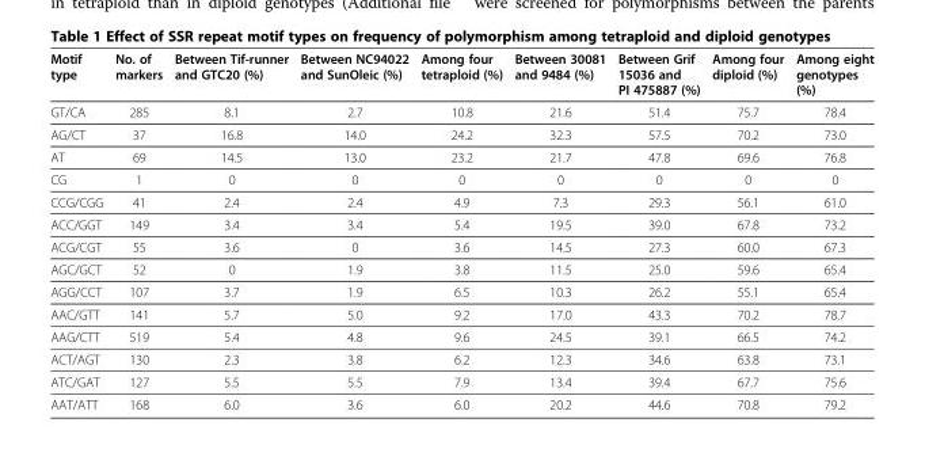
<table><thead><tr><td>Motif type</td><td>No. of markers</td><td>Between Tif-runner and GTC20 (%)</td><td>Between NC94022 and SunOleic (%)</td><td>Among four tetraploid (%)</td><td>Between 30081 and 9484 (%)</td><td>Between Grif 15036 and PI 475887 (%)</td><td>Among four diploid (%)</td><td>Among eight genotypes (%)</td></tr></thead><tbody><tr><td>GT/CA</td><td>285</td><td>8.1</td><td>2.7</td><td>10.8</td><td>21.6</td><td>51.4</td><td>75.7</td><td>78.4</td></tr><tr><td>AG/CT</td><td>37</td><td>16.8</td><td>14.0</td><td>24.2</td><td>32.3</td><td>57.5</td><td>70.2</td><td>73.0</td></tr><tr><td>AT</td><td>69</td><td>14.5</td><td>13.0</td><td>23.2</td><td>21.7</td><td>47.8</td><td>69.6</td><td>76.8</td></tr><tr><td>CG</td><td>1</td><td>0</td><td>0</td><td>0</td><td>0</td><td>0</td><td>0</td><td>0</td></tr><tr><td>CCG/CGG</td><td>41</td><td>2.4</td><td>2.4</td><td>4.9</td><td>7.3</td><td>29.3</td><td>56.1</td><td>61.0</td></tr><tr><td>ACC/GGT</td><td>149</td><td>3.4</td><td>3.4</td><td>5.4</td><td>19.5</td><td>39.0</td><td>67.8</td><td>73.2</td></tr><tr><td>ACG/CGT</td><td>55</td><td>3.6</td><td>0</td><td>3.6</td><td>14.5</td><td>27.3</td><td>60.0</td><td>67.3</td></tr><tr><td>AGC/GCT</td><td>52</td><td>0</td><td>1.9</td><td>3.8</td><td>11.5</td><td>25.0</td><td>59.6</td><td>65.4</td></tr><tr><td>AGG/CCT</td><td>107</td><td>3.7</td><td>1.9</td><td>6.5</td><td>10.3</td><td>26.2</td><td>55.1</td><td>65.4</td></tr><tr><td>AAC/GTT</td><td>141</td><td>5.7</td><td>5.0</td><td>9.2</td><td>17.0</td><td>43.3</td><td>70.2</td><td>78.7</td></tr><tr><td>AAG/CTT</td><td>519</td><td>5.4</td><td>4.8</td><td>9.6</td><td>24.5</td><td>39.1</td><td>66.5</td><td>74.2</td></tr><tr><td>ACT/AGT</td><td>130</td><td>2.3</td><td>3.8</td><td>6.2</td><td>12.3</td><td>34.6</td><td>63.8</td><td>73.1</td></tr><tr><td>ATC/GAT</td><td>127</td><td>5.5</td><td>5.5</td><td>7.9</td><td>13.4</td><td>39.4</td><td>67.7</td><td>75.6</td></tr><tr><td>AAT/ATT</td><td>168</td><td>6.0</td><td>3.6</td><td>6.0</td><td>20.2</td><td>44.6</td><td>70.8</td><td>79.2</td></tr></tbody></table>